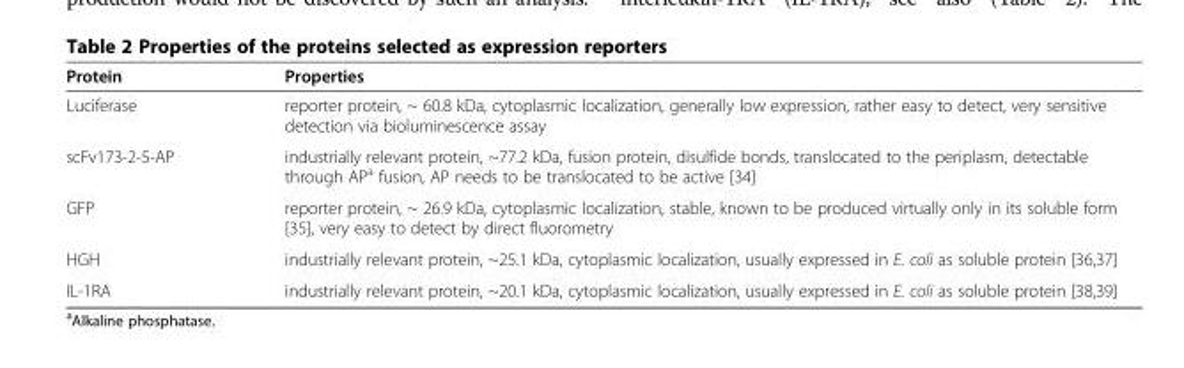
<table><thead><tr><td>Protein</td><td>Properties</td></tr></thead><tbody><tr><td>Luciferase</td><td>reporter protein, ~ 60.8 kDa, cytoplasmic localization, generally low expression, rather easy to detect, very sensitive detection via bioluminescence assay</td></tr><tr><td>scFv173-2-5-AP</td><td>industrially relevant protein, ~77.2 kDa, fusion protein, disulfide bonds, translocated to the periplasm, detectable through AP<sup>a</sup> fusion, AP needs to be translocated to be active [34]</td></tr><tr><td>GFP</td><td>reporter protein, ~ 26.9 kDa, cytoplasmic localization, stable, known to be produced virtually only in its soluble form [35], very easy to detect by direct fluorometry</td></tr><tr><td>HGH</td><td>industrially relevant protein, ~25.1 kDa, cytoplasmic localization, usually expressed in E. coli as soluble protein [36,37]</td></tr><tr><td>IL-1RA</td><td>industrially relevant protein, ~20.1 kDa, cytoplasmic localization, usually expressed in E. coli as soluble protein [38,39]</td></tr></tbody></table>